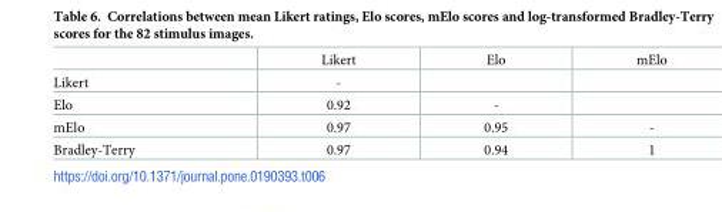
<table><thead><tr><td></td><td>Likert</td><td>Elo</td><td>mElo</td></tr></thead><tbody><tr><td>Likert</td><td>-</td><td></td><td></td></tr><tr><td>Elo</td><td>0.92</td><td>-</td><td></td></tr><tr><td>mElo</td><td>0.97</td><td>0.95</td><td>-</td></tr><tr><td>Bradley-Terry</td><td>0.97</td><td>0.94</td><td>1</td></tr></tbody></table>